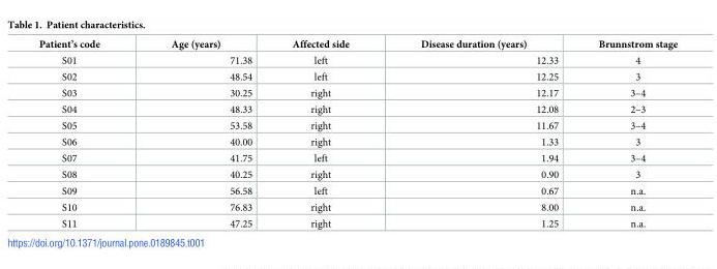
<table><thead><tr><td>Patient’s code</td><td>Age (years)</td><td>Affected side</td><td>Disease duration (years)</td><td>Brunnstrom stage</td></tr></thead><tbody><tr><td>S01</td><td>71.38</td><td>left</td><td>12.33</td><td>4</td></tr><tr><td>S02</td><td>48.54</td><td>left</td><td>12.25</td><td>3</td></tr><tr><td>S03</td><td>30.25</td><td>right</td><td>12.17</td><td>3–4</td></tr><tr><td>S04</td><td>48.33</td><td>right</td><td>12.08</td><td>2–3</td></tr><tr><td>S05</td><td>53.58</td><td>right</td><td>11.67</td><td>3–4</td></tr><tr><td>S06</td><td>40.00</td><td>right</td><td>1.33</td><td>3</td></tr><tr><td>S07</td><td>41.75</td><td>left</td><td>1.94</td><td>3–4</td></tr><tr><td>S08</td><td>40.25</td><td>right</td><td>0.90</td><td>3</td></tr><tr><td>S09</td><td>56.58</td><td>left</td><td>0.67</td><td>n.a.</td></tr><tr><td>S10</td><td>76.83</td><td>right</td><td>8.00</td><td>n.a.</td></tr><tr><td>S11</td><td>47.25</td><td>right</td><td>1.25</td><td>n.a.</td></tr></tbody></table>